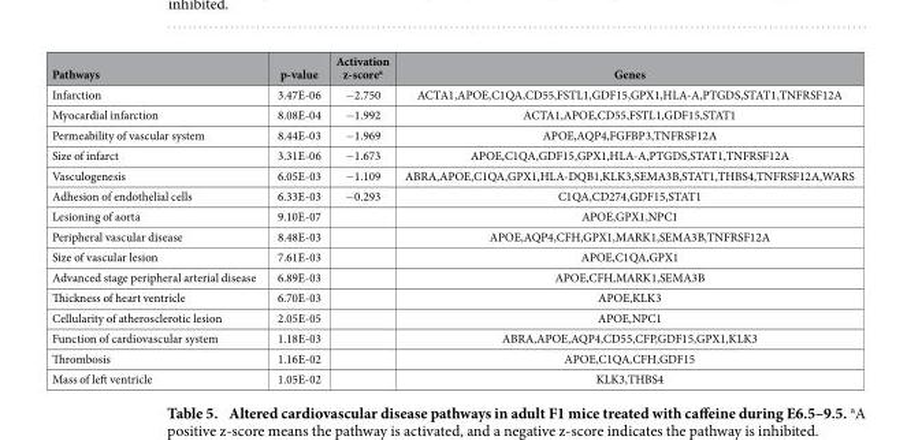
<table><thead><tr><td>Pathways</td><td>p-value</td><td>Activation z-score<sup>a</sup></td><td>Genes</td></tr></thead><tbody><tr><td>Infarction</td><td>3.47E-06</td><td>− 2.750</td><td>ACTA1,APOE,C1QA,CD55,FSTL1,GDF15,GPX1,HLA-A,PTGDS,STAT1,TNFRSF12A</td></tr><tr><td>Myocardial infarction</td><td>8.08E-04</td><td>− 1.992</td><td>ACTA1,APOE,CD55,FSTL1,GDF15,STAT1</td></tr><tr><td>Permeability of vascular system</td><td>8.44E-03</td><td>− 1.969</td><td>APOE,AQP4,FGFBP3,TNFRSF12A</td></tr><tr><td>Size of infarct</td><td>3.31E-06</td><td>− 1.673</td><td>APOE,C1QA,GDF15,GPX1,HLA-A,PTGDS,STAT1,TNFRSF12A</td></tr><tr><td>Vasculogenesis</td><td>6.05E-03</td><td>− 1.109</td><td>ABRA,APOE,C1QA,GPX1,HLA-DQB1,KLK3,SEMA3B,STAT1,THBS4,TNFRSF12A,WARS</td></tr><tr><td>Adhesion of endothelial cells</td><td>6.33E-03</td><td>− 0.293</td><td>C1QA,CD274,GDF15,STAT1</td></tr><tr><td>Lesioning of aorta</td><td>9.10E-07</td><td></td><td>APOE,GPX1,NPC1</td></tr><tr><td>Peripheral vascular disease</td><td>8.48E-03</td><td></td><td>APOE,AQP4,CFH,GPX1,MARK1,SEMA3B,TNFRSF12A</td></tr><tr><td>Size of vascular lesion</td><td>7.61E-03</td><td></td><td>APOE,C1QA,GPX1</td></tr><tr><td>Advanced stage peripheral arterial disease</td><td>6.89E-03</td><td></td><td>APOE,CFH,MARK1,SEMA3B</td></tr><tr><td>Thickness of heart ventricle</td><td>6.70E-03</td><td></td><td>APOE,KLK3</td></tr><tr><td>Cellularity of atherosclerotic lesion</td><td>2.05E-05</td><td></td><td>APOE,NPC1</td></tr><tr><td>Function of cardiovascular system</td><td>1.18E-03</td><td></td><td>ABRA,APOE,AQP4,CD55,CFP,GDF15,GPX1,KLK3</td></tr><tr><td>Thrombosis</td><td>1.16E-02</td><td></td><td>APOE,C1QA,CFH,GDF15</td></tr><tr><td>Mass of left ventricle</td><td>1.05E-02</td><td></td><td>KLK3,THBS4</td></tr></tbody></table>